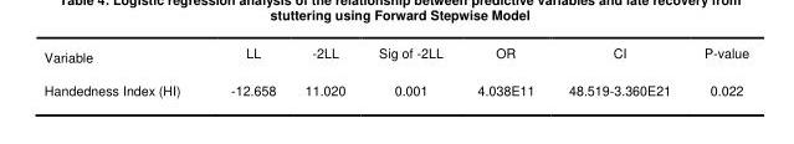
<table><tbody><tr><td>Variable</td><td>LL</td><td>-2LL</td><td>Sig of -2LL</td><td>OR</td><td>CI</td><td>P-value</td></tr><tr><td>Handedness Index (HI)</td><td>-12.658</td><td>11.020</td><td>0.001</td><td>4.038E11</td><td>48.519-3.360E21</td><td>0.022</td></tr></tbody></table>